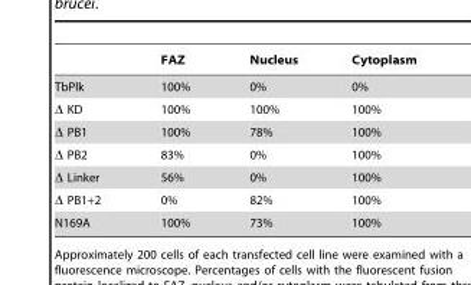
<table><thead><tr><td></td><td>FAZ</td><td>Nucleus</td><td>Cytoplasm</td></tr></thead><tbody><tr><td>TbPlk</td><td>100%</td><td>0%</td><td>0%</td></tr><tr><td>Δ KD</td><td>100%</td><td>100%</td><td>100%</td></tr><tr><td>Δ PB1</td><td>100%</td><td>78%</td><td>100%</td></tr><tr><td>Δ PB2</td><td>83%</td><td>0%</td><td>100%</td></tr><tr><td>Δ Linker</td><td>56%</td><td>0%</td><td>100%</td></tr><tr><td>Δ PB1+2</td><td>0%</td><td>82%</td><td>100%</td></tr><tr><td>N169A</td><td>100%</td><td>73%</td><td>100%</td></tr></tbody></table>